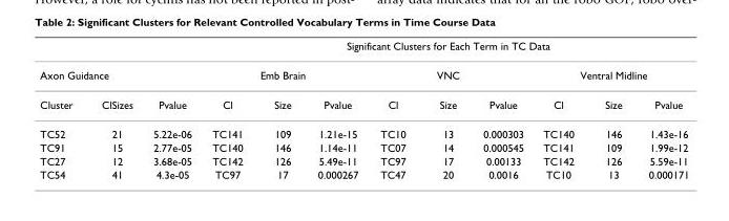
<table><thead><tr><td></td><td></td><td></td><td colspan="9">Significant Clusters for Each Term in TC Data</td></tr><tr><td colspan="3">Axon Guidance</td><td colspan="3">Emb Brain</td><td colspan="3">VNC</td><td colspan="3">Ventral Midline</td></tr><tr><td>Cluster</td><td>ClSizes</td><td>Pvalue</td><td>Cl</td><td>Size</td><td>Pvalue</td><td>Cl</td><td>Size</td><td>Pvalue</td><td>Cl</td><td>Size</td><td>Pvalue</td></tr></thead><tbody><tr><td>TC52</td><td>21</td><td>5.22e-06</td><td>TC141</td><td>109</td><td>1.21e-15</td><td>TC10</td><td>13</td><td>0.000303</td><td>TC140</td><td>146</td><td>1.43e-16</td></tr><tr><td>TC91</td><td>15</td><td>2.77e-05</td><td>TC140</td><td>146</td><td>1.14e-11</td><td>TC07</td><td>14</td><td>0.000545</td><td>TC141</td><td>109</td><td>1.99e-12</td></tr><tr><td>TC27</td><td>12</td><td>3.68e-05</td><td>TC142</td><td>126</td><td>5.49e-11</td><td>TC97</td><td>17</td><td>0.00133</td><td>TC142</td><td>126</td><td>5.59e-11</td></tr><tr><td>TC54</td><td>41</td><td>4.3e-05</td><td>TC97</td><td>17</td><td>0.000267</td><td>TC47</td><td>20</td><td>0.0016</td><td>TC10</td><td>13</td><td>0.000171</td></tr></tbody></table>